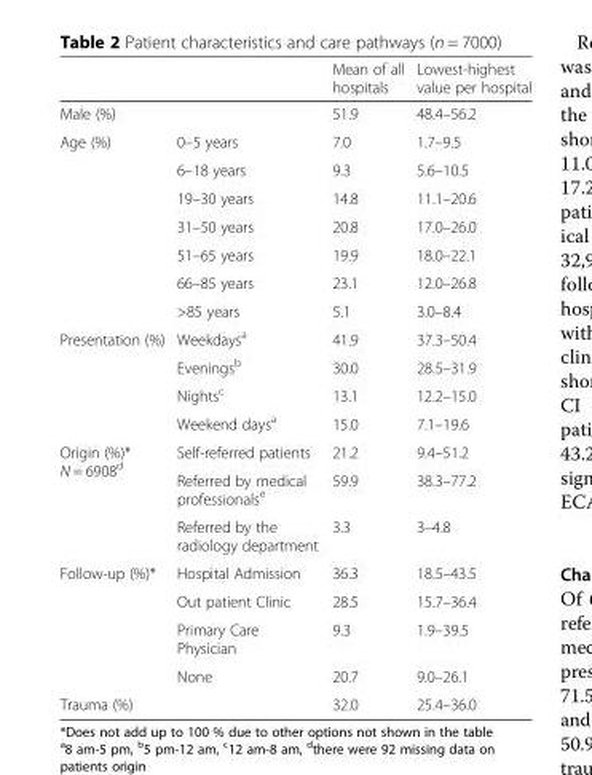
<table><thead><tr><td></td><td></td><td>Mean of all hospitals</td><td>Lowest-highest value per hospital</td></tr></thead><tbody><tr><td colspan="2">Male (%)</td><td>51.9</td><td>48.4–56.2</td></tr><tr><td rowspan="7">Age (%)</td><td>0–5 years</td><td>7.0</td><td>1.7–9.5</td></tr><tr><td>6–18 years</td><td>9.3</td><td>5.6–10.5</td></tr><tr><td>19–30 years</td><td>14.8</td><td>11.1–20.6</td></tr><tr><td>31–50 years</td><td>20.8</td><td>17.0–26.0</td></tr><tr><td>51–65 years</td><td>19.9</td><td>18.0–22.1</td></tr><tr><td>66–85 years</td><td>23.1</td><td>12.0–26.8</td></tr><tr><td>&gt;85 years</td><td>5.1</td><td>3.0–8.4</td></tr><tr><td rowspan="4">Presentation (%)</td><td>Weekdays<sup>a</sup></td><td>41.9</td><td>37.3–50.4</td></tr><tr><td>Evenings<sup>b</sup></td><td>30.0</td><td>28.5–31.9</td></tr><tr><td>Nights<sup>c</sup></td><td>13.1</td><td>12.2–15.0</td></tr><tr><td>Weekend days<sup>a</sup></td><td>15.0</td><td>7.1–19.6</td></tr><tr><td rowspan="3">Origin (%)* N = 6908<sup>d</sup></td><td>Self-referred patients</td><td>21.2</td><td>9.4–51.2</td></tr><tr><td>Referred by medical professionals<sup>e</sup></td><td>59.9</td><td>38.3–77.2</td></tr><tr><td>Referred by the radiology department</td><td>3.3</td><td>3–4.8</td></tr><tr><td rowspan="4">Follow-up (%)*</td><td>Hospital Admission</td><td>36.3</td><td>18.5–43.5</td></tr><tr><td>Out patient Clinic</td><td>28.5</td><td>15.7–36.4</td></tr><tr><td>Primary Care Physician</td><td>9.3</td><td>1.9–39.5</td></tr><tr><td>None</td><td>20.7</td><td>9.0–26.1</td></tr><tr><td colspan="2">Trauma (%)</td><td>32.0</td><td>25.4–36.0</td></tr></tbody></table>